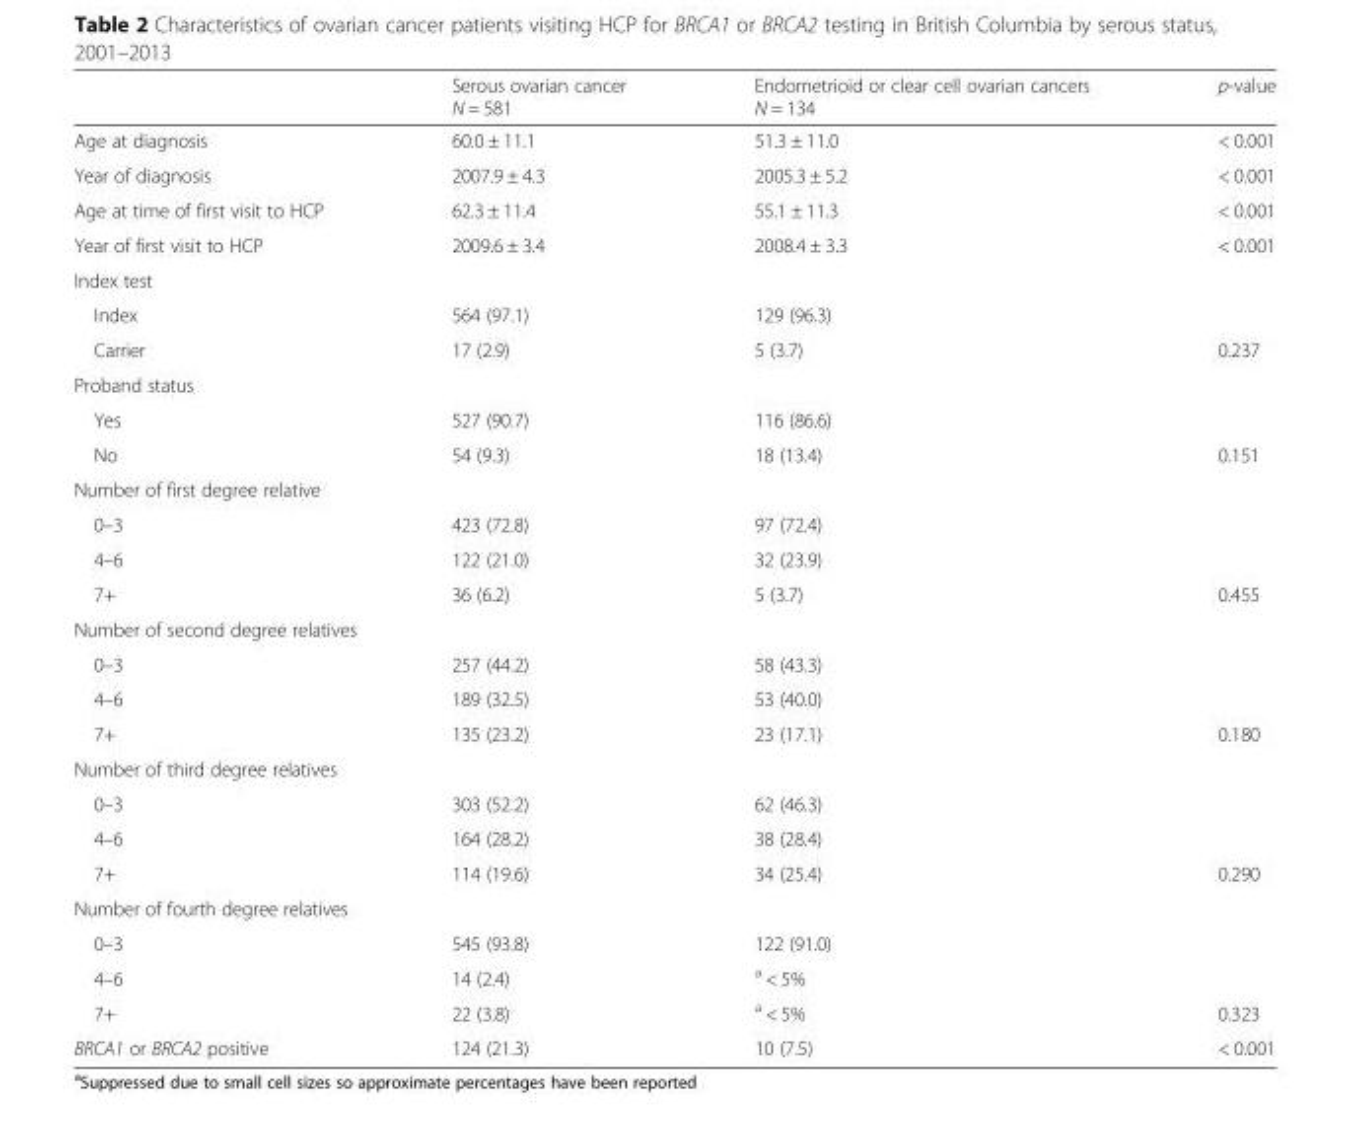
<table><thead><tr><td></td><td>Serous ovarian cancer N = 581</td><td>Endometrioid or clear cell ovarian cancers N = 134</td><td>p-value</td></tr></thead><tbody><tr><td>Age at diagnosis</td><td>60.0 ± 11.1</td><td>51.3 ± 11.0</td><td>&lt; 0.001</td></tr><tr><td>Year of diagnosis</td><td>2007.9 ± 4.3</td><td>2005.3 ± 5.2</td><td>&lt; 0.001</td></tr><tr><td>Age at time of first visit to HCP</td><td>62.3 ± 11.4</td><td>55.1 ± 11.3</td><td>&lt; 0.001</td></tr><tr><td>Year of first visit to HCP</td><td>2009.6 ± 3.4</td><td>2008.4 ± 3.3</td><td>&lt; 0.001</td></tr><tr><td colspan="4">Index test</td></tr><tr><td>Index</td><td>564 (97.1)</td><td>129 (96.3)</td><td></td></tr><tr><td>Carrier</td><td>17 (2.9)</td><td>5 (3.7)</td><td>0.237</td></tr><tr><td colspan="4">Proband status</td></tr><tr><td>Yes</td><td>527 (90.7)</td><td>116 (86.6)</td><td></td></tr><tr><td>No</td><td>54 (9.3)</td><td>18 (13.4)</td><td>0.151</td></tr><tr><td colspan="4">Number of first degree relative</td></tr><tr><td>0–3</td><td>423 (72.8)</td><td>97 (72.4)</td><td></td></tr><tr><td>4–6</td><td>122 (21.0)</td><td>32 (23.9)</td><td></td></tr><tr><td>7+</td><td>36 (6.2)</td><td>5 (3.7)</td><td>0.455</td></tr><tr><td colspan="4">Number of second degree relatives</td></tr><tr><td>0–3</td><td>257 (44.2)</td><td>58 (43.3)</td><td></td></tr><tr><td>4–6</td><td>189 (32.5)</td><td>53 (40.0)</td><td></td></tr><tr><td>7+</td><td>135 (23.2)</td><td>23 (17.1)</td><td>0.180</td></tr><tr><td colspan="4">Number of third degree relatives</td></tr><tr><td>0–3</td><td>303 (52.2)</td><td>62 (46.3)</td><td></td></tr><tr><td>4–6</td><td>164 (28.2)</td><td>38 (28.4)</td><td></td></tr><tr><td>7+</td><td>114 (19.6)</td><td>34 (25.4)</td><td>0.290</td></tr><tr><td colspan="4">Number of fourth degree relatives</td></tr><tr><td>0–3</td><td>545 (93.8)</td><td>122 (91.0)</td><td></td></tr><tr><td>4–6</td><td>14 (2.4)</td><td><sup>a</sup> &lt; 5%</td><td></td></tr><tr><td>7+</td><td>22 (3.8)</td><td><sup>a</sup> &lt; 5%</td><td>0.323</td></tr><tr><td>BRCA1 or BRCA2 positive</td><td>124 (21.3)</td><td>10 (7.5)</td><td>&lt; 0.001</td></tr></tbody></table>